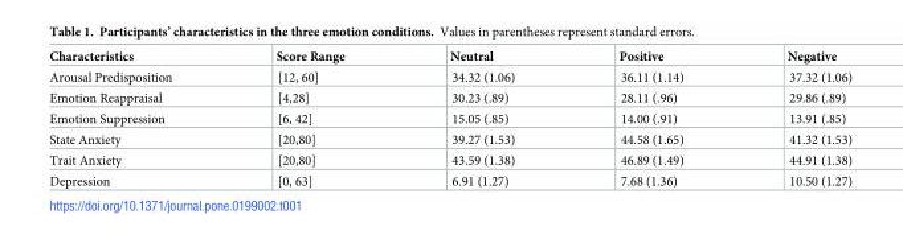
<table><thead><tr><td>Characteristics</td><td>Score Range</td><td>Neutral</td><td>Positive</td><td>Negative</td></tr></thead><tbody><tr><td>Arousal Predisposition</td><td>[12, 60]</td><td>34.32 (1.06)</td><td>36.11 (1.14)</td><td>37.32 (1.06)</td></tr><tr><td>Emotion Reappraisal</td><td>[4,28]</td><td>30.23 (.89)</td><td>28.11 (.96)</td><td>29.86 (.89)</td></tr><tr><td>Emotion Suppression</td><td>[6, 42]</td><td>15.05 (.85)</td><td>14.00 (.91)</td><td>13.91 (.85)</td></tr><tr><td>State Anxiety</td><td>[20,80]</td><td>39.27 (1.53)</td><td>44.58 (1.65)</td><td>41.32 (1.53)</td></tr><tr><td>Trait Anxiety</td><td>[20,80]</td><td>43.59 (1.38)</td><td>46.89 (1.49)</td><td>44.91 (1.38)</td></tr><tr><td>Depression</td><td>[0, 63]</td><td>6.91 (1.27)</td><td>7.68 (1.36)</td><td>10.50 (1.27)</td></tr></tbody></table>